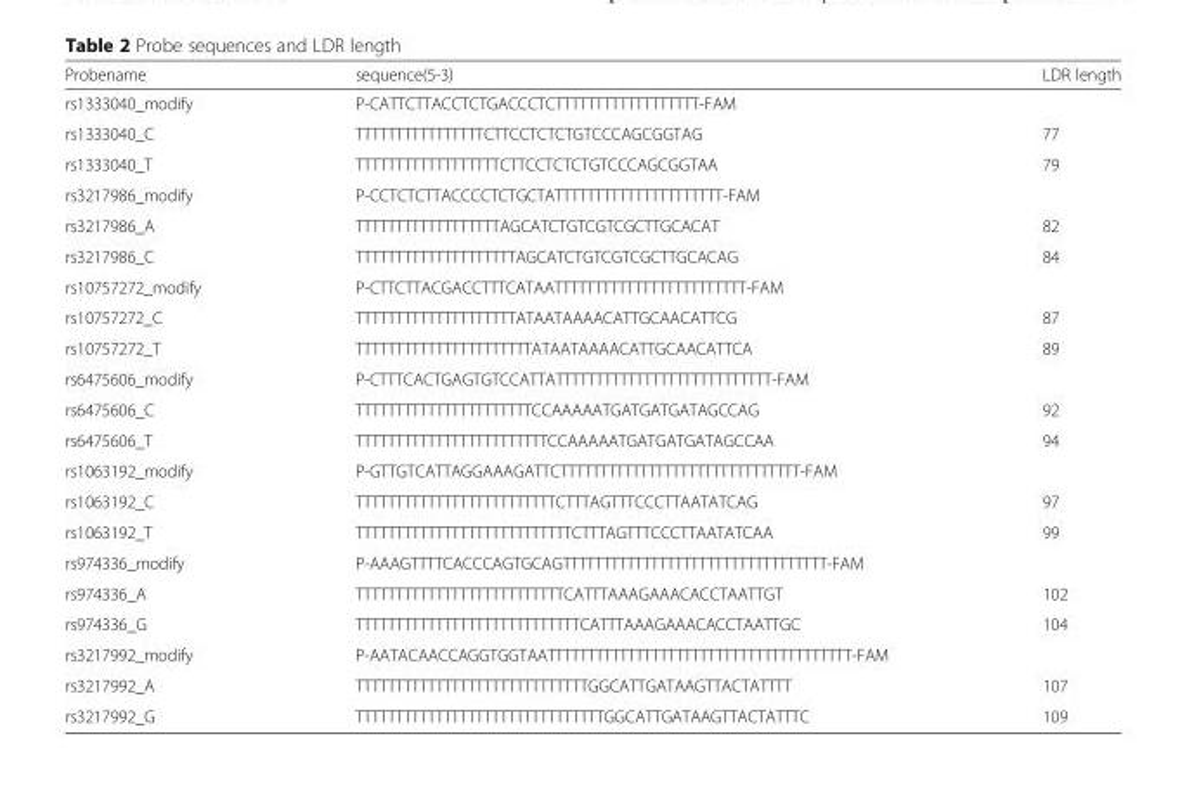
<table><thead><tr><td>Probename</td><td>sequence(5-3)</td><td>LDR length</td></tr></thead><tbody><tr><td>rs1333040_modify</td><td>P-CATTCTTACCTCTGACCCTCTTTTTTTTTTTTTTTTTT-FAM</td><td></td></tr><tr><td>rs1333040_C</td><td>TTTTTTTTTTTTTTTTCTTCCTCTCTGTCCCAGCGGTAG</td><td>77</td></tr><tr><td>rs1333040_T</td><td>TTTTTTTTTTTTTTTTTTCTTCCTCTCTGTCCCAGCGGTAA</td><td>79</td></tr><tr><td>rs3217986_modify</td><td>P-CCTCTCTTACCCCTCTGCTATTTTTTTTTTTTTTTTTTTTT-FAM</td><td></td></tr><tr><td>rs3217986_A</td><td>TTTTTTTTTTTTTTTTTTAGCATCTGTCGTCGCTTGCACAT</td><td>82</td></tr><tr><td>rs3217986_C</td><td>TTTTTTTTTTTTTTTTTTTTAGCATCTGTCGTCGCTTGCACAG</td><td>84</td></tr><tr><td>rs10757272_modify</td><td>P-CTTCTTACGACCTTTCATAATTTTTTTTTTTTTTTTTTTTTTTT-FAM</td><td></td></tr><tr><td>rs10757272_C</td><td>TTTTTTTTTTTTTTTTTTTTATAATAAAACATTGCAACATTCG</td><td>87</td></tr><tr><td>rs10757272_T</td><td>TTTTTTTTTTTTTTTTTTTTTTATAATAAAACATTGCAACATTCA</td><td>89</td></tr><tr><td>rs6475606_modify</td><td>P-CTTTCACTGAGTGTCCATTATTTTTTTTTTTTTTTTTTTTTTTTTTT-FAM</td><td></td></tr><tr><td>rs6475606_C</td><td>TTTTTTTTTTTTTTTTTTTTTTCCAAAAATGATGATGATAGCCAG</td><td>92</td></tr><tr><td>rs6475606_T</td><td>TTTTTTTTTTTTTTTTTTTTTTTTCCAAAAATGATGATGATAGCCAA</td><td>94</td></tr><tr><td>rs1063192_modify</td><td>P-GTTGTCATTAGGAAAGATTCTTTTTTTTTTTTTTTTTTTTTTTTTTTTTT-FAM</td><td></td></tr><tr><td>rs1063192_C</td><td>TTTTTTTTTTTTTTTTTTTTTTTTTCTTTAGTTTCCCTTAATATCAG</td><td>97</td></tr><tr><td>rs1063192_T</td><td>TTTTTTTTTTTTTTTTTTTTTTTTTTTCTTTAGTTTCCCTTAATATCAA</td><td>99</td></tr><tr><td>rs974336_modify</td><td>P-AAAGTTTTCACCCAGTGCAGTTTTTTTTTTTTTTTTTTTTTTTTTTTTTTTTT-FAM</td><td></td></tr><tr><td>rs974336_A</td><td>TTTTTTTTTTTTTTTTTTTTTTTTTTCATTTAAAGAAACACCTAATTGT</td><td>102</td></tr><tr><td>rs974336_G</td><td>TTTTTTTTTTTTTTTTTTTTTTTTTTTTCATTTAAAGAAACACCTAATTGC</td><td>104</td></tr><tr><td>rs3217992_modify</td><td>P-AATACAACCAGGTGGTAATTTTTTTTTTTTTTTTTTTTTTTTTTTTTTTTTTTTTT-FAM</td><td></td></tr><tr><td>rs3217992_A</td><td>TTTTTTTTTTTTTTTTTTTTTTTTTTTTTGGCATTGATAAGTTACTATTTT</td><td>107</td></tr><tr><td>rs3217992_G</td><td>TTTTTTTTTTTTTTTTTTTTTTTTTTTTTTTGGCATTGATAAGTTACTATTTC</td><td>109</td></tr></tbody></table>